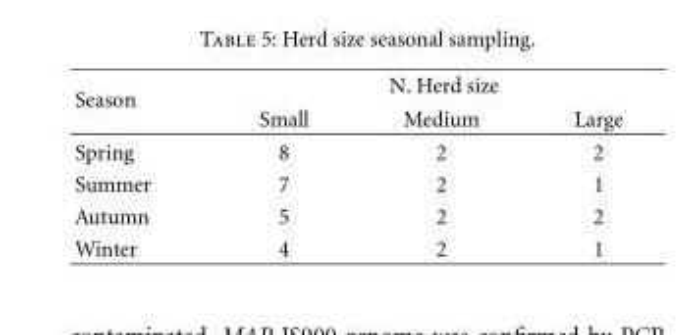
<table><thead><tr><td rowspan="2">Season</td><td colspan="3">N. Herd size</td></tr><tr><td>Small</td><td>Medium</td><td>Large</td></tr></thead><tbody><tr><td>Spring</td><td>8</td><td>2</td><td>2</td></tr><tr><td>Summer</td><td>7</td><td>2</td><td>1</td></tr><tr><td>Autumn</td><td>5</td><td>2</td><td>2</td></tr><tr><td>Winter</td><td>4</td><td>2</td><td>1</td></tr></tbody></table>